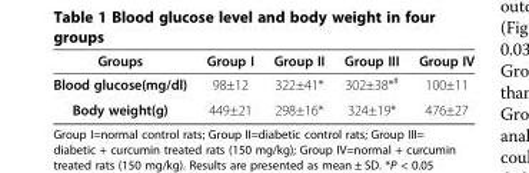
<table><thead><tr><td>Groups</td><td>Group I</td><td>Group II</td><td>Group III</td><td>Group IV</td></tr></thead><tbody><tr><td>Blood glucose(mg/dl)</td><td>98±12</td><td>322±41*</td><td>302±38*<sup>#</sup></td><td>100±11</td></tr><tr><td>Body weight(g)</td><td>449±21</td><td>298±16*</td><td>324±19*</td><td>476±27</td></tr></tbody></table>